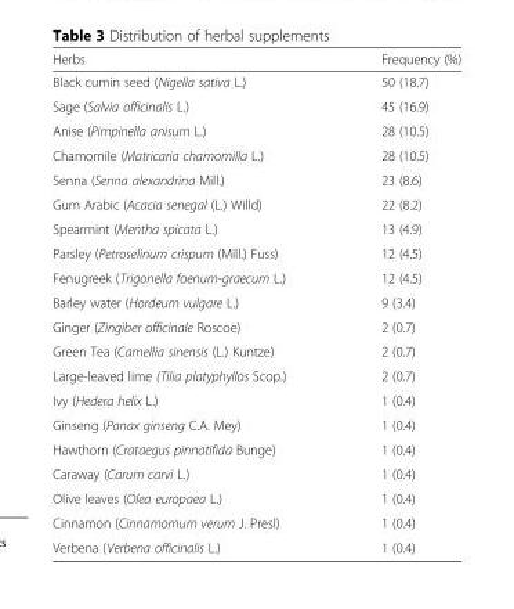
<table><thead><tr><td>Herbs</td><td>Frequency (%)</td></tr></thead><tbody><tr><td>Black cumin seed (Nigella sativa L.)</td><td>50 (18.7)</td></tr><tr><td>Sage (Salvia officinalis L.)</td><td>45 (16.9)</td></tr><tr><td>Anise (Pimpinella anisum L.)</td><td>28 (10.5)</td></tr><tr><td>Chamomile (Matricaria chamomilla L.)</td><td>28 (10.5)</td></tr><tr><td>Senna (Senna alexandrina Mill.)</td><td>23 (8.6)</td></tr><tr><td>Gum Arabic (Acacia senegal (L.) Willd)</td><td>22 (8.2)</td></tr><tr><td>Spearmint (Mentha spicata L.)</td><td>13 (4.9)</td></tr><tr><td>Parsley (Petroselinum crispum (Mill.) Fuss)</td><td>12 (4.5)</td></tr><tr><td>Fenugreek (Trigonella foenum-graecum L.)</td><td>12 (4.5)</td></tr><tr><td>Barley water (Hordeum vulgare L.)</td><td>9 (3.4)</td></tr><tr><td>Ginger (Zingiber officinale Roscoe)</td><td>2 (0.7)</td></tr><tr><td>Green Tea (Camellia sinensis (L.) Kuntze)</td><td>2 (0.7)</td></tr><tr><td>Large-leaved lime (Tilia platyphyllos Scop.)</td><td>2 (0.7)</td></tr><tr><td>Ivy (Hedera helix L.)</td><td>1 (0.4)</td></tr><tr><td>Ginseng (Panax ginseng C.A. Mey)</td><td>1 (0.4)</td></tr><tr><td>Hawthorn (Crataegus pinnatifida Bunge)</td><td>1 (0.4)</td></tr><tr><td>Caraway (Carum carvi L.)</td><td>1 (0.4)</td></tr><tr><td>Olive leaves (Olea europaea L.)</td><td>1 (0.4)</td></tr><tr><td>Cinnamon (Cinnamomum verum J. Presl)</td><td>1 (0.4)</td></tr><tr><td>Verbena (Verbena officinalis L.)</td><td>1 (0.4)</td></tr></tbody></table>